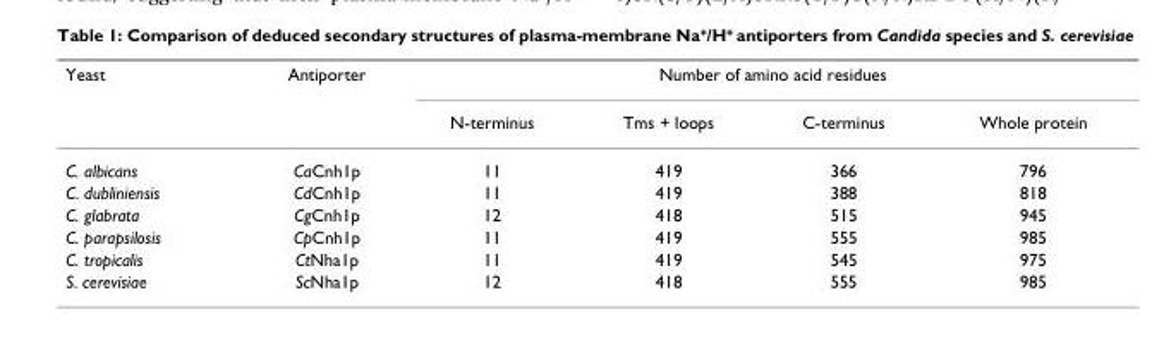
<table><thead><tr><td rowspan="2">Yeast</td><td rowspan="2">Antiporter</td><td colspan="4">Number of amino acid residues</td></tr><tr><td>N-terminus</td><td>Tms + loops</td><td>C-terminus</td><td>Whole protein</td></tr></thead><tbody><tr><td>C. albicans</td><td>CaCnh1p</td><td>11</td><td>419</td><td>366</td><td>796</td></tr><tr><td>C. dubliniensis</td><td>CdCnh1p</td><td>11</td><td>419</td><td>388</td><td>818</td></tr><tr><td>C. glabrata</td><td>CgCnh1p</td><td>12</td><td>418</td><td>515</td><td>945</td></tr><tr><td>C. parapsilosis</td><td>CpCnh1p</td><td>11</td><td>419</td><td>555</td><td>985</td></tr><tr><td>C. tropicalis</td><td>CtNha1p</td><td>11</td><td>419</td><td>545</td><td>975</td></tr><tr><td>S. cerevisiae</td><td>ScNha1p</td><td>12</td><td>418</td><td>555</td><td>985</td></tr></tbody></table>